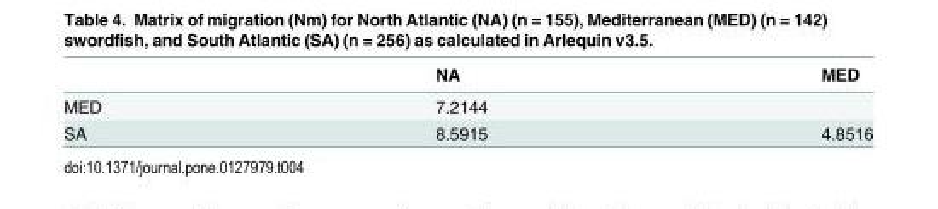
<table><thead><tr><td></td><td>NA</td><td>MED</td></tr></thead><tbody><tr><td>MED</td><td>7.2144</td><td></td></tr><tr><td>SA</td><td>8.5915</td><td>4.8516</td></tr></tbody></table>